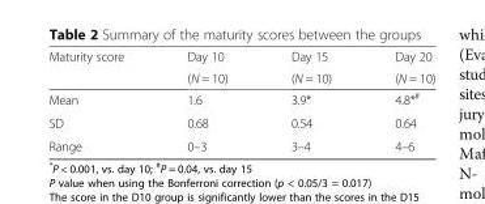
<table><thead><tr><td rowspan="2">Maturity score</td><td rowspan="2">Day 10 (N = 10)</td><td rowspan="2">Day 15 (N = 10)</td><td rowspan="2">Day 20 (N = 10)</td></tr><tr></tr></thead><tbody><tr><td>Mean</td><td>1.6</td><td>3.9*</td><td>4.8*<sup>#</sup></td></tr><tr><td>SD</td><td>0.68</td><td>0.54</td><td>0.64</td></tr><tr><td>Range</td><td>0–3</td><td>3–4</td><td>4–6</td></tr></tbody></table>